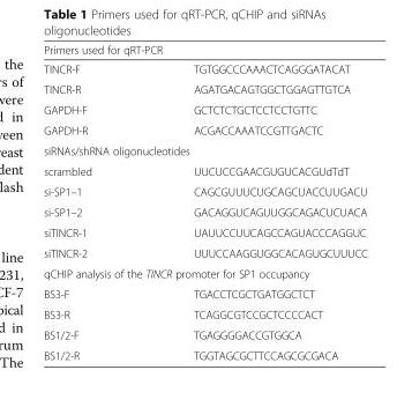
<table><thead><tr><td colspan="2">Primers used for qRT-PCR</td></tr><tr><td>TINCR-F</td><td>TGTGGCCCAAACTCAGGGATACAT</td></tr></thead><tbody><tr><td>TINCR-R</td><td>AGATGACAGTGGCTGGAGTTGTCA</td></tr><tr><td>GAPDH-F</td><td>GCTCTCTGCTCCTCCTGTTC</td></tr><tr><td>GAPDH-R</td><td>ACGACCAAATCCGTTGACTC</td></tr><tr><td colspan="2">siRNAs/shRNA oligonucleotides</td></tr><tr><td>scrambled</td><td>UUCUCCGAACGUGUCACGUdTdT</td></tr><tr><td>si-SP1–1</td><td>CAGCGUUUCUGCAGCUACCUUGACU</td></tr><tr><td>si-SP1–2</td><td>GACAGGUCAGUUGGCAGACUCUACA</td></tr><tr><td>siTINCR-1</td><td>UAUUCCUUCAGCCAGUACCCAGGUC</td></tr><tr><td>siTINCR-2</td><td>UUUCCAAGGUGGCACAGUGCUUUCC</td></tr><tr><td colspan="2">qCHIP analysis of the TINCR promoter for SP1 occupancy</td></tr><tr><td>BS3-F</td><td>TGACCTCGCTGATGGCTCT</td></tr><tr><td>BS3-R</td><td>TCAGGCGTCCGCTCCCCACT</td></tr><tr><td>BS1/2-F</td><td>TGAGGGGACCGTGGCA</td></tr><tr><td>BS1/2-R</td><td>TGGTAGCGCTTCCAGCGCGACA</td></tr></tbody></table>